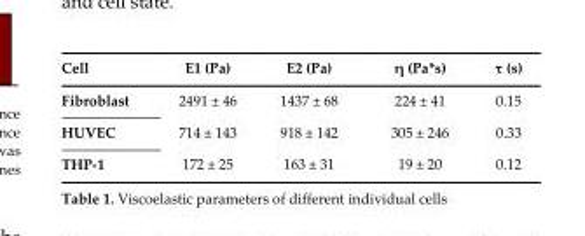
<table><thead><tr><td>Cell</td><td>E1 (Pa)</td><td>E2 (Pa)</td><td>η (Pa*s)</td><td>τ (s)</td></tr></thead><tbody><tr><td>Fibroblast</td><td>2491 ± 46</td><td>1437 ± 68</td><td>224 ± 41</td><td>0.15</td></tr><tr><td>HUVEC</td><td>714 ± 143</td><td>918 ± 142</td><td>305 ± 246</td><td>0.33</td></tr><tr><td>THP-1</td><td>172 ± 25</td><td>163 ± 31</td><td>19 ± 20</td><td>0.12</td></tr></tbody></table>